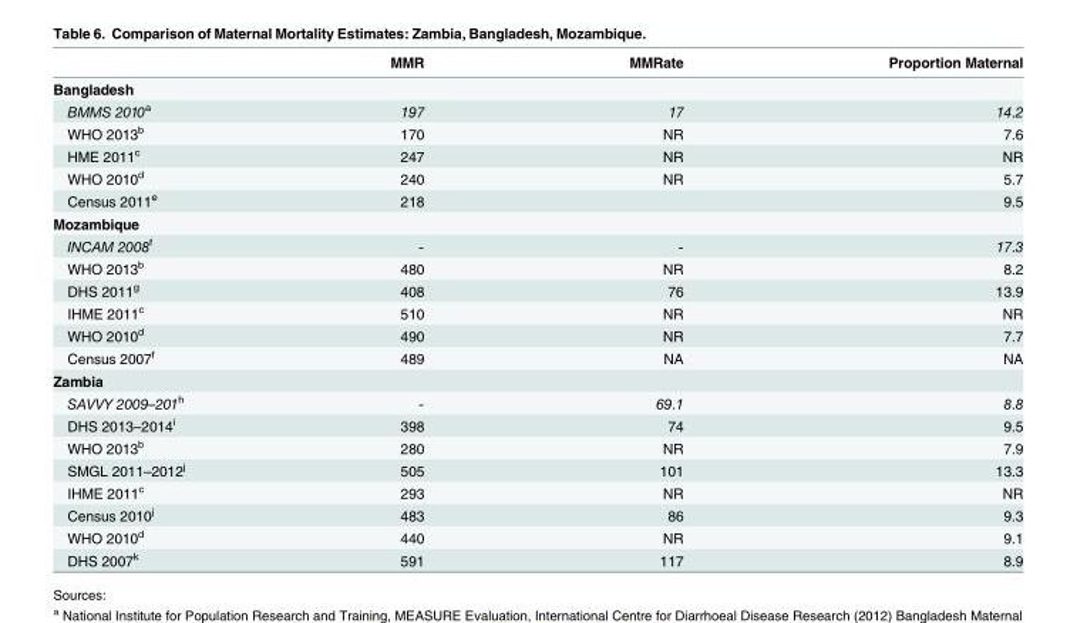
<table><thead><tr><td></td><td>MMR</td><td>MMRate</td><td>Proportion Maternal</td></tr></thead><tbody><tr><td colspan="4">Bangladesh</td></tr><tr><td>BMMS 2010<sup>a</sup></td><td>197</td><td>17</td><td>14.2</td></tr><tr><td>WHO 2013<sup>b</sup></td><td>170</td><td>NR</td><td>7.6</td></tr><tr><td>HME 2011<sup>c</sup></td><td>247</td><td>NR</td><td>NR</td></tr><tr><td>WHO 2010<sup>d</sup></td><td>240</td><td>NR</td><td>5.7</td></tr><tr><td>Census 2011<sup>e</sup></td><td>218</td><td></td><td>9.5</td></tr><tr><td colspan="4">Mozambique</td></tr><tr><td>INCAM 2008<sup>f</sup></td><td>-</td><td>-</td><td>17.3</td></tr><tr><td>WHO 2013<sup>b</sup></td><td>480</td><td>NR</td><td>8.2</td></tr><tr><td>DHS 2011<sup>g</sup></td><td>408</td><td>76</td><td>13.9</td></tr><tr><td>IHME 2011<sup>c</sup></td><td>510</td><td>NR</td><td>NR</td></tr><tr><td>WHO 2010<sup>d</sup></td><td>490</td><td>NR</td><td>7.7</td></tr><tr><td>Census 2007<sup>f</sup></td><td>489</td><td>NA</td><td>NA</td></tr><tr><td colspan="4">Zambia</td></tr><tr><td>SAVVY 2009–201<sup>h</sup></td><td>-</td><td>69.1</td><td>8.8</td></tr><tr><td>DHS 2013–2014<sup>i</sup></td><td>398</td><td>74</td><td>9.5</td></tr><tr><td>WHO 2013<sup>b</sup></td><td>280</td><td>NR</td><td>7.9</td></tr><tr><td>SMGL 2011–2012<sup>j</sup></td><td>505</td><td>101</td><td>13.3</td></tr><tr><td>IHME 2011<sup>c</sup></td><td>293</td><td>NR</td><td>NR</td></tr><tr><td>Census 2010<sup>j</sup></td><td>483</td><td>86</td><td>9.3</td></tr><tr><td>WHO 2010<sup>d</sup></td><td>440</td><td>NR</td><td>9.1</td></tr><tr><td>DHS 2007<sup>k</sup></td><td>591</td><td>117</td><td>8.9</td></tr></tbody></table>